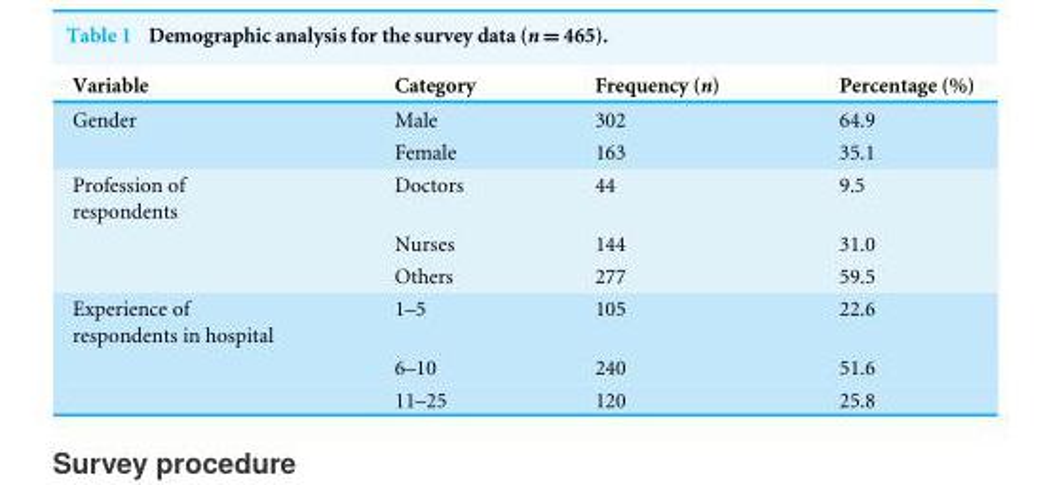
<table><thead><tr><td>Variable</td><td>Category</td><td>Frequency (n)</td><td>Percentage (%)</td></tr></thead><tbody><tr><td rowspan="2">Gender</td><td>Male</td><td>302</td><td>64.9</td></tr><tr><td>Female</td><td>163</td><td>35.1</td></tr><tr><td rowspan="3">Profession of respondents</td><td>Doctors</td><td>44</td><td>9.5</td></tr><tr><td>Nurses</td><td>144</td><td>31.0</td></tr><tr><td>Others</td><td>277</td><td>59.5</td></tr><tr><td rowspan="3">Experience of respondents in hospital</td><td>1–5</td><td>105</td><td>22.6</td></tr><tr><td>6–10</td><td>240</td><td>51.6</td></tr><tr><td>11–25</td><td>120</td><td>25.8</td></tr></tbody></table>